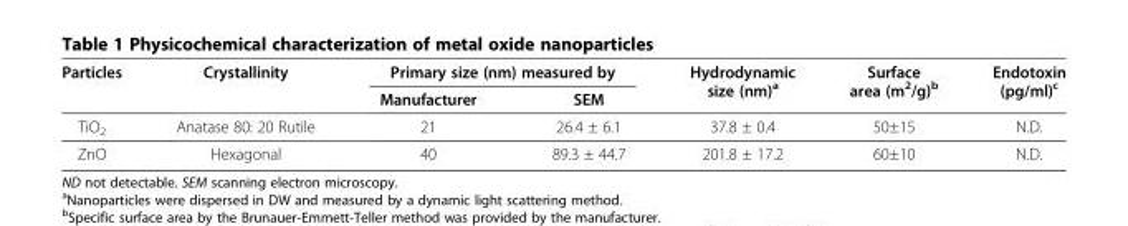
<table><thead><tr><td rowspan="2">Particles</td><td rowspan="2">Crystallinity</td><td colspan="2">Primary size (nm) measured by</td><td rowspan="2">Hydrodynamic size (nm)<sup>a</sup></td><td rowspan="2">Surface area (m<sup>2</sup>/g)<sup>b</sup></td><td rowspan="2">Endotoxin (pg/ml)<sup>c</sup></td></tr><tr><td>Manufacturer</td><td>SEM</td></tr></thead><tbody><tr><td>TiO<sub>2</sub></td><td>Anatase 80: 20 Rutile</td><td>21</td><td>26.4 ± 6.1</td><td>37.8 ± 0.4</td><td>50±15</td><td>N.D.</td></tr><tr><td>ZnO</td><td>Hexagonal</td><td>40</td><td>89.3 ± 44.7</td><td>201.8 ± 17.2</td><td>60±10</td><td>N.D.</td></tr></tbody></table>